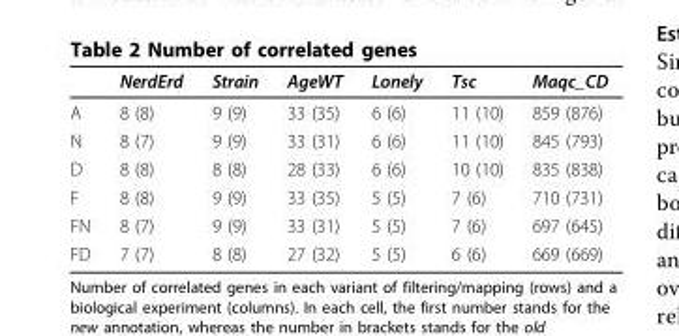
<table><thead><tr><td></td><td>NerdErd</td><td>Strain</td><td>AgeWT</td><td>Lonely</td><td>Tsc</td><td>Maqc_CD</td></tr></thead><tbody><tr><td>A</td><td>8 (8)</td><td>9 (9)</td><td>33 (35)</td><td>6 (6)</td><td>11 (10)</td><td>859 (876)</td></tr><tr><td>N</td><td>8 (7)</td><td>9 (9)</td><td>33 (31)</td><td>6 (6)</td><td>11 (10)</td><td>845 (793)</td></tr><tr><td>D</td><td>8 (8)</td><td>8 (8)</td><td>28 (33)</td><td>6 (6)</td><td>10 (10)</td><td>835 (838)</td></tr><tr><td>F</td><td>8 (8)</td><td>9 (9)</td><td>33 (35)</td><td>5 (5)</td><td>7 (6)</td><td>710 (731)</td></tr><tr><td>FN</td><td>8 (7)</td><td>9 (9)</td><td>33 (31)</td><td>5 (5)</td><td>7 (6)</td><td>697 (645)</td></tr><tr><td>FD</td><td>7 (7)</td><td>8 (8)</td><td>27 (32)</td><td>5 (5)</td><td>6 (6)</td><td>669 (669)</td></tr></tbody></table>